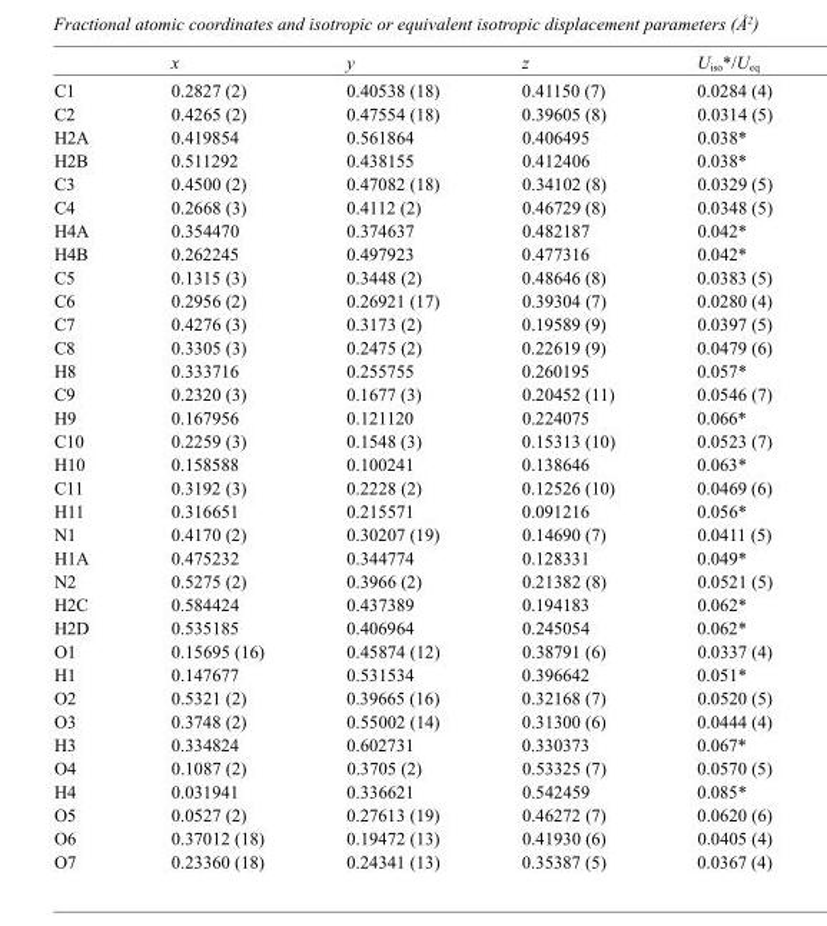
<table><thead><tr><td></td><td>x</td><td>y</td><td>z</td><td>U<sub>iso</sub>*/U<sub>eq</sub></td></tr></thead><tbody><tr><td>C1</td><td>0.2827 (2)</td><td>0.40538 (18)</td><td>0.41150 (7)</td><td>0.0284 (4)</td></tr><tr><td>C2</td><td>0.4265 (2)</td><td>0.47554 (18)</td><td>0.39605 (8)</td><td>0.0314 (5)</td></tr><tr><td>H2A</td><td>0.419854</td><td>0.561864</td><td>0.406495</td><td>0.038*</td></tr><tr><td>H2B</td><td>0.511292</td><td>0.438155</td><td>0.412406</td><td>0.038*</td></tr><tr><td>C3</td><td>0.4500 (2)</td><td>0.47082 (18)</td><td>0.34102 (8)</td><td>0.0329 (5)</td></tr><tr><td>C4</td><td>0.2668 (3)</td><td>0.4112 (2)</td><td>0.46729 (8)</td><td>0.0348 (5)</td></tr><tr><td>H4A</td><td>0.354470</td><td>0.374637</td><td>0.482187</td><td>0.042*</td></tr><tr><td>H4B</td><td>0.262245</td><td>0.497923</td><td>0.477316</td><td>0.042*</td></tr><tr><td>C5</td><td>0.1315 (3)</td><td>0.3448 (2)</td><td>0.48646 (8)</td><td>0.0383 (5)</td></tr><tr><td>C6</td><td>0.2956 (2)</td><td>0.26921 (17)</td><td>0.39304 (7)</td><td>0.0280 (4)</td></tr><tr><td>C7</td><td>0.4276 (3)</td><td>0.3173 (2)</td><td>0.19589 (9)</td><td>0.0397 (5)</td></tr><tr><td>C8</td><td>0.3305 (3)</td><td>0.2475 (2)</td><td>0.22619 (9)</td><td>0.0479 (6)</td></tr><tr><td>H8</td><td>0.333716</td><td>0.255755</td><td>0.260195</td><td>0.057*</td></tr><tr><td>C9</td><td>0.2320 (3)</td><td>0.1677 (3)</td><td>0.20452 (11)</td><td>0.0546 (7)</td></tr><tr><td>H9</td><td>0.167956</td><td>0.121120</td><td>0.224075</td><td>0.066*</td></tr><tr><td>C10</td><td>0.2259 (3)</td><td>0.1548 (3)</td><td>0.15313 (10)</td><td>0.0523 (7)</td></tr><tr><td>H10</td><td>0.158588</td><td>0.100241</td><td>0.138646</td><td>0.063*</td></tr><tr><td>C11</td><td>0.3192 (3)</td><td>0.2228 (2)</td><td>0.12526 (10)</td><td>0.0469 (6)</td></tr><tr><td>H11</td><td>0.316651</td><td>0.215571</td><td>0.091216</td><td>0.056*</td></tr><tr><td>N1</td><td>0.4170 (2)</td><td>0.30207 (19)</td><td>0.14690 (7)</td><td>0.0411 (5)</td></tr><tr><td>H1A</td><td>0.475232</td><td>0.344774</td><td>0.128331</td><td>0.049*</td></tr><tr><td>N2</td><td>0.5275 (2)</td><td>0.3966 (2)</td><td>0.21382 (8)</td><td>0.0521 (5)</td></tr><tr><td>H2C</td><td>0.584424</td><td>0.437389</td><td>0.194183</td><td>0.062*</td></tr><tr><td>H2D</td><td>0.535185</td><td>0.406964</td><td>0.245054</td><td>0.062*</td></tr><tr><td>O1</td><td>0.15695 (16)</td><td>0.45874 (12)</td><td>0.38791 (6)</td><td>0.0337 (4)</td></tr><tr><td>H1</td><td>0.147677</td><td>0.531534</td><td>0.396642</td><td>0.051*</td></tr><tr><td>O2</td><td>0.5321 (2)</td><td>0.39665 (16)</td><td>0.32168 (7)</td><td>0.0520 (5)</td></tr><tr><td>O3</td><td>0.3748 (2)</td><td>0.55002 (14)</td><td>0.31300 (6)</td><td>0.0444 (4)</td></tr><tr><td>H3</td><td>0.334824</td><td>0.602731</td><td>0.330373</td><td>0.067*</td></tr><tr><td>O4</td><td>0.1087 (2)</td><td>0.3705 (2)</td><td>0.53325 (7)</td><td>0.0570 (5)</td></tr><tr><td>H4</td><td>0.031941</td><td>0.336621</td><td>0.542459</td><td>0.085*</td></tr><tr><td>O5</td><td>0.0527 (2)</td><td>0.27613 (19)</td><td>0.46272 (7)</td><td>0.0620 (6)</td></tr><tr><td>O6</td><td>0.37012 (18)</td><td>0.19472 (13)</td><td>0.41930 (6)</td><td>0.0405 (4)</td></tr><tr><td>O7</td><td>0.23360 (18)</td><td>0.24341 (13)</td><td>0.35387 (5)</td><td>0.0367 (4)</td></tr></tbody></table>